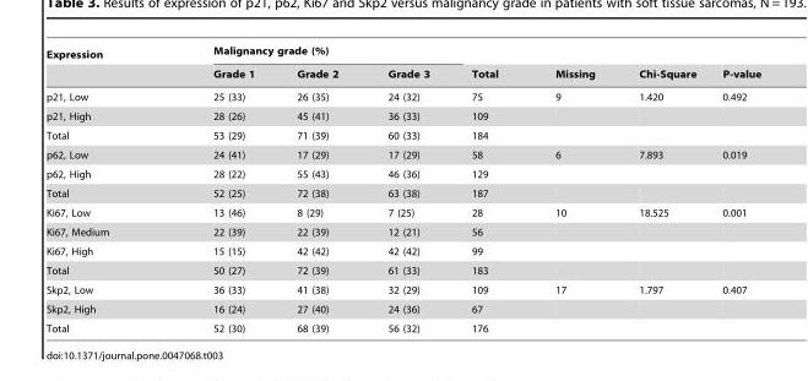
<table><thead><tr><td rowspan="2">Expression</td><td colspan="3">Malignancy grade (%)</td><td rowspan="2">Total</td><td rowspan="2">Missing</td><td rowspan="2">Chi-Square</td><td rowspan="2">P-value</td></tr><tr><td>Grade 1</td><td>Grade 2</td><td>Grade 3</td></tr></thead><tbody><tr><td>p21, Low</td><td>25 (33)</td><td>26 (35)</td><td>24 (32)</td><td>75</td><td>9</td><td>1.420</td><td>0.492</td></tr><tr><td>p21, High</td><td>28 (26)</td><td>45 (41)</td><td>36 (33)</td><td>109</td><td></td><td></td><td></td></tr><tr><td>Total</td><td>53 (29)</td><td>71 (39)</td><td>60 (33)</td><td>184</td><td></td><td></td><td></td></tr><tr><td>p62, Low</td><td>24 (41)</td><td>17 (29)</td><td>17 (29)</td><td>58</td><td>6</td><td>7.893</td><td>0.019</td></tr><tr><td>p62, High</td><td>28 (22)</td><td>55 (43)</td><td>46 (36)</td><td>129</td><td></td><td></td><td></td></tr><tr><td>Total</td><td>52 (25)</td><td>72 (38)</td><td>63 (38)</td><td>187</td><td></td><td></td><td></td></tr><tr><td>Ki67, Low</td><td>13 (46)</td><td>8 (29)</td><td>7 (25)</td><td>28</td><td>10</td><td>18.525</td><td>0.001</td></tr><tr><td>Ki67, Medium</td><td>22 (39)</td><td>22 (39)</td><td>12 (21)</td><td>56</td><td></td><td></td><td></td></tr><tr><td>Ki67, High</td><td>15 (15)</td><td>42 (42)</td><td>42 (42)</td><td>99</td><td></td><td></td><td></td></tr><tr><td>Total</td><td>50 (27)</td><td>72 (39)</td><td>61 (33)</td><td>183</td><td></td><td></td><td></td></tr><tr><td>Skp2, Low</td><td>36 (33)</td><td>41 (38)</td><td>32 (29)</td><td>109</td><td>17</td><td>1.797</td><td>0.407</td></tr><tr><td>Skp2, High</td><td>16 (24)</td><td>27 (40)</td><td>24 (36)</td><td>67</td><td></td><td></td><td></td></tr><tr><td>Total</td><td>52 (30)</td><td>68 (39)</td><td>56 (32)</td><td>176</td><td></td><td></td><td></td></tr></tbody></table>